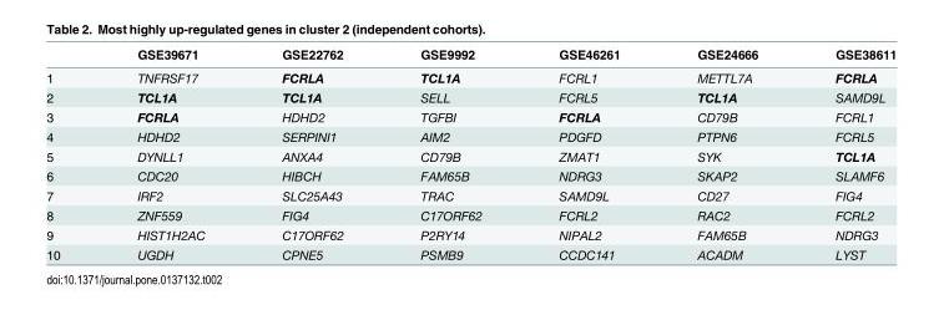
<table><thead><tr><td></td><td>GSE39671</td><td>GSE22762</td><td>GSE9992</td><td>GSE46261</td><td>GSE24666</td><td>GSE38611</td></tr></thead><tbody><tr><td>1</td><td>TNFRSF17</td><td>FCRLA</td><td>TCL1A</td><td>FCRL1</td><td>METTL7A</td><td>FCRLA</td></tr><tr><td>2</td><td>TCL1A</td><td>TCL1A</td><td>SELL</td><td>FCRL5</td><td>TCL1A</td><td>SAMD9L</td></tr><tr><td>3</td><td>FCRLA</td><td>HDHD2</td><td>TGFBI</td><td>FCRLA</td><td>CD79B</td><td>FCRL1</td></tr><tr><td>4</td><td>HDHD2</td><td>SERPINI1</td><td>AIM2</td><td>PDGFD</td><td>PTPN6</td><td>FCRL5</td></tr><tr><td>5</td><td>DYNLL1</td><td>ANXA4</td><td>CD79B</td><td>ZMAT1</td><td>SYK</td><td>TCL1A</td></tr><tr><td>6</td><td>CDC20</td><td>HIBCH</td><td>FAM65B</td><td>NDRG3</td><td>SKAP2</td><td>SLAMF6</td></tr><tr><td>7</td><td>IRF2</td><td>SLC25A43</td><td>TRAC</td><td>SAMD9L</td><td>CD27</td><td>FIG4</td></tr><tr><td>8</td><td>ZNF559</td><td>FIG4</td><td>C17ORF62</td><td>FCRL2</td><td>RAC2</td><td>FCRL2</td></tr><tr><td>9</td><td>HIST1H2AC</td><td>C17ORF62</td><td>P2RY14</td><td>NIPAL2</td><td>FAM65B</td><td>NDRG3</td></tr><tr><td>10</td><td>UGDH</td><td>CPNE5</td><td>PSMB9</td><td>CCDC141</td><td>ACADM</td><td>LYST</td></tr></tbody></table>